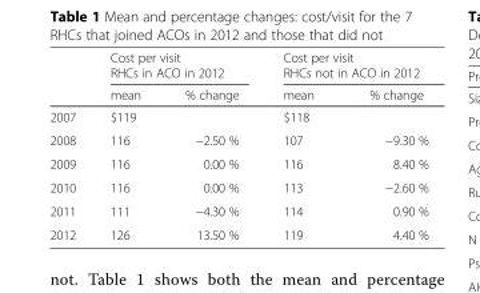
<table><thead><tr><td rowspan="3"></td><td rowspan="2" colspan="2">Cost per visit RHCs in ACO in 2012</td><td rowspan="2" colspan="2">Cost per visit RHCs not in ACO in 2012</td></tr><tr></tr><tr><td>mean</td><td>% change</td><td>mean</td><td>% change</td></tr></thead><tbody><tr><td>2007</td><td>$119</td><td></td><td>$118</td><td></td></tr><tr><td>2008</td><td>116</td><td>−2.50 %</td><td>107</td><td>−9.30 %</td></tr><tr><td>2009</td><td>116</td><td>0.00 %</td><td>116</td><td>8.40 %</td></tr><tr><td>2010</td><td>116</td><td>0.00 %</td><td>113</td><td>−2.60 %</td></tr><tr><td>2011</td><td>111</td><td>−4.30 %</td><td>114</td><td>0.90 %</td></tr><tr><td>2012</td><td>126</td><td>13.50 %</td><td>119</td><td>4.40 %</td></tr></tbody></table>